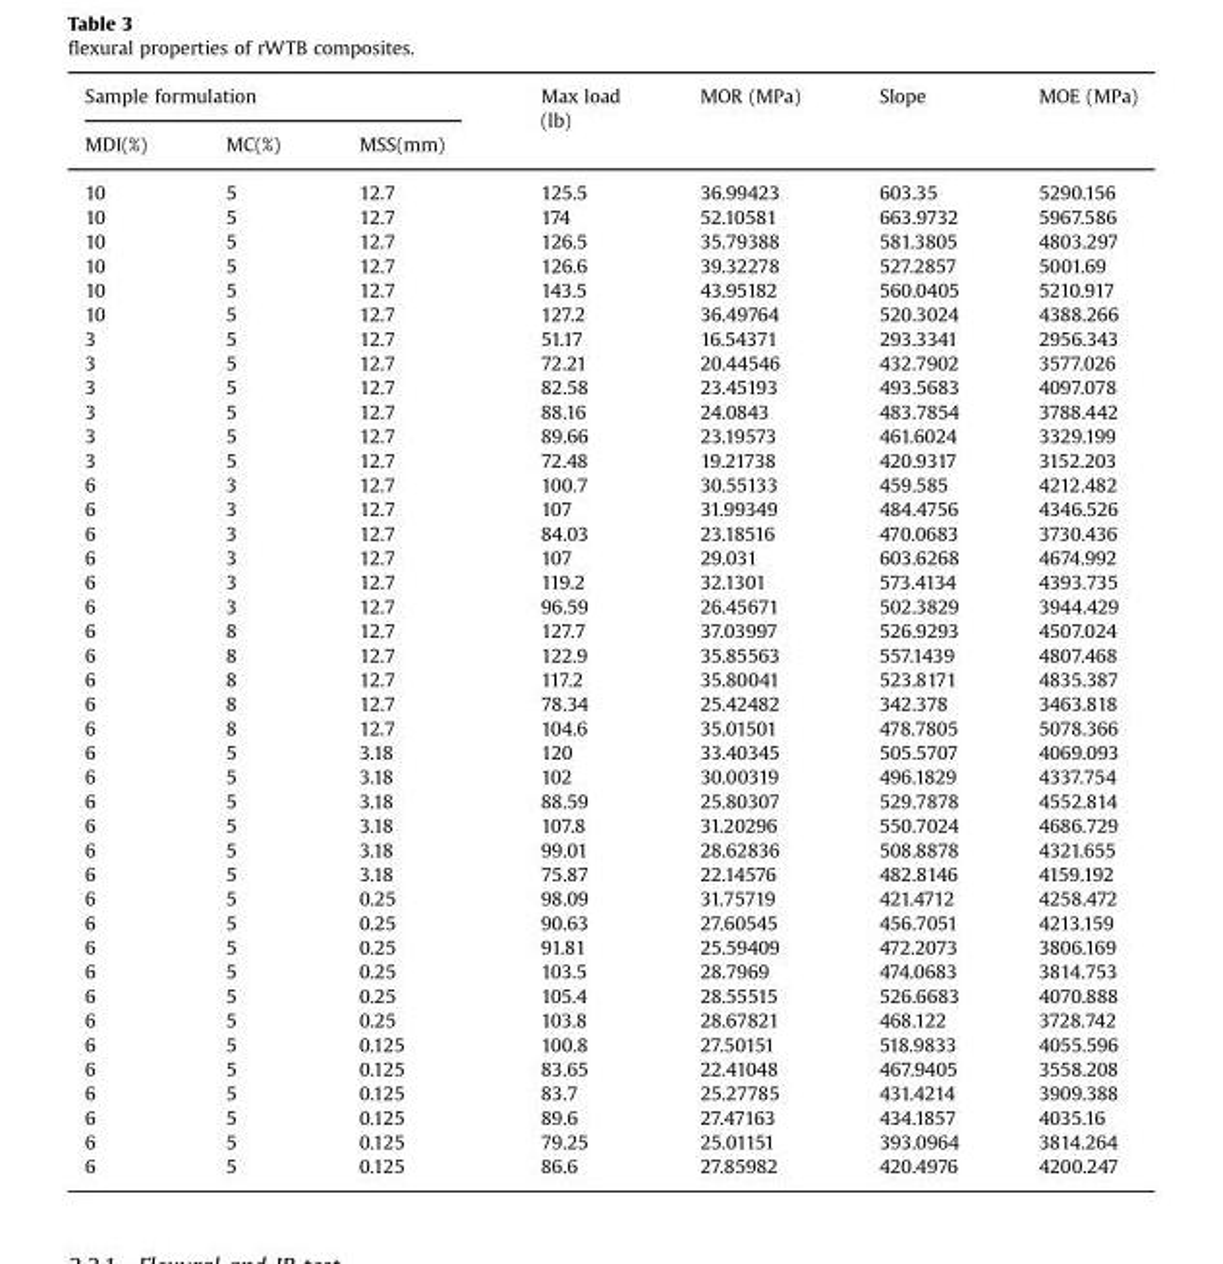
<table><thead><tr><td colspan="3">Sample formulation</td><td rowspan="2">Max load (lb)</td><td rowspan="2">MOR (MPa)</td><td rowspan="2">Slope</td><td rowspan="2">MOE (MPa)</td></tr><tr><td>MDI(%)</td><td>MC(%)</td><td>MSS(mm)</td></tr></thead><tbody><tr><td>10</td><td>5</td><td>12.7</td><td>125.5</td><td>36.99423</td><td>603.35</td><td>5290.156</td></tr><tr><td>10</td><td>5</td><td>12.7</td><td>174</td><td>52.10581</td><td>663.9732</td><td>5967.586</td></tr><tr><td>10</td><td>5</td><td>12.7</td><td>126.5</td><td>35.79388</td><td>581.3805</td><td>4803.297</td></tr><tr><td>10</td><td>5</td><td>12.7</td><td>126.6</td><td>39.32278</td><td>527.2857</td><td>5001.69</td></tr><tr><td>10</td><td>5</td><td>12.7</td><td>143.5</td><td>43.95182</td><td>560.0405</td><td>5210.917</td></tr><tr><td>10</td><td>5</td><td>12.7</td><td>127.2</td><td>36.49764</td><td>520.3024</td><td>4388.266</td></tr><tr><td>3</td><td>5</td><td>12.7</td><td>51.17</td><td>16.54371</td><td>293.3341</td><td>2956.343</td></tr><tr><td>3</td><td>5</td><td>12.7</td><td>72.21</td><td>20.44546</td><td>432.7902</td><td>3577.026</td></tr><tr><td>3</td><td>5</td><td>12.7</td><td>82.58</td><td>23.45193</td><td>493.5683</td><td>4097.078</td></tr><tr><td>3</td><td>5</td><td>12.7</td><td>88.16</td><td>24.0843</td><td>483.7854</td><td>3788.442</td></tr><tr><td>3</td><td>5</td><td>12.7</td><td>89.66</td><td>23.19573</td><td>461.6024</td><td>3329.199</td></tr><tr><td>3</td><td>5</td><td>12.7</td><td>72.48</td><td>19.21738</td><td>420.9317</td><td>3152.203</td></tr><tr><td>6</td><td>3</td><td>12.7</td><td>100.7</td><td>30.55133</td><td>459.585</td><td>4212.482</td></tr><tr><td>6</td><td>3</td><td>12.7</td><td>107</td><td>31.99349</td><td>484.4756</td><td>4346.526</td></tr><tr><td>6</td><td>3</td><td>12.7</td><td>84.03</td><td>23.18516</td><td>470.0683</td><td>3730.436</td></tr><tr><td>6</td><td>3</td><td>12.7</td><td>107</td><td>29.031</td><td>603.6268</td><td>4674.992</td></tr><tr><td>6</td><td>3</td><td>12.7</td><td>119.2</td><td>32.1301</td><td>573.4134</td><td>4393.735</td></tr><tr><td>6</td><td>3</td><td>12.7</td><td>96.59</td><td>26.45671</td><td>502.3829</td><td>3944.429</td></tr><tr><td>6</td><td>8</td><td>12.7</td><td>127.7</td><td>37.03997</td><td>526.9293</td><td>4507.024</td></tr><tr><td>6</td><td>8</td><td>12.7</td><td>122.9</td><td>35.85563</td><td>557.1439</td><td>4807.468</td></tr><tr><td>6</td><td>8</td><td>12.7</td><td>117.2</td><td>35.80041</td><td>523.8171</td><td>4835.387</td></tr><tr><td>6</td><td>8</td><td>12.7</td><td>78.34</td><td>25.42482</td><td>342.378</td><td>3463.818</td></tr><tr><td>6</td><td>8</td><td>12.7</td><td>104.6</td><td>35.01501</td><td>478.7805</td><td>5078.366</td></tr><tr><td>6</td><td>5</td><td>3.18</td><td>120</td><td>33.40345</td><td>505.5707</td><td>4069.093</td></tr><tr><td>6</td><td>5</td><td>3.18</td><td>102</td><td>30.00319</td><td>496.1829</td><td>4337.754</td></tr><tr><td>6</td><td>5</td><td>3.18</td><td>88.59</td><td>25.80307</td><td>529.7878</td><td>4552.814</td></tr><tr><td>6</td><td>5</td><td>3.18</td><td>107.8</td><td>31.20296</td><td>550.7024</td><td>4686.729</td></tr><tr><td>6</td><td>5</td><td>3.18</td><td>99.01</td><td>28.62836</td><td>508.8878</td><td>4321.655</td></tr><tr><td>6</td><td>5</td><td>3.18</td><td>75.87</td><td>22.14576</td><td>482.8146</td><td>4159.192</td></tr><tr><td>6</td><td>5</td><td>0.25</td><td>98.09</td><td>31.75719</td><td>421.4712</td><td>4258.472</td></tr><tr><td>6</td><td>5</td><td>0.25</td><td>90.63</td><td>27.60545</td><td>456.7051</td><td>4213.159</td></tr><tr><td>6</td><td>5</td><td>0.25</td><td>91.81</td><td>25.59409</td><td>472.2073</td><td>3806.169</td></tr><tr><td>6</td><td>5</td><td>0.25</td><td>103.5</td><td>28.7969</td><td>474.0683</td><td>3814.753</td></tr><tr><td>6</td><td>5</td><td>0.25</td><td>105.4</td><td>28.55515</td><td>526.6683</td><td>4070.888</td></tr><tr><td>6</td><td>5</td><td>0.25</td><td>103.8</td><td>28.67821</td><td>468.122</td><td>3728.742</td></tr><tr><td>6</td><td>5</td><td>0.125</td><td>100.8</td><td>27.50151</td><td>518.9833</td><td>4055.596</td></tr><tr><td>6</td><td>5</td><td>0.125</td><td>83.65</td><td>22.41048</td><td>467.9405</td><td>3558.208</td></tr><tr><td>6</td><td>5</td><td>0.125</td><td>83.7</td><td>25.27785</td><td>431.4214</td><td>3909.388</td></tr><tr><td>6</td><td>5</td><td>0.125</td><td>89.6</td><td>27.47163</td><td>434.1857</td><td>4035.16</td></tr><tr><td>6</td><td>5</td><td>0.125</td><td>79.25</td><td>25.01151</td><td>393.0964</td><td>3814.264</td></tr><tr><td>6</td><td>5</td><td>0.125</td><td>86.6</td><td>27.85982</td><td>420.4976</td><td>4200.247</td></tr></tbody></table>